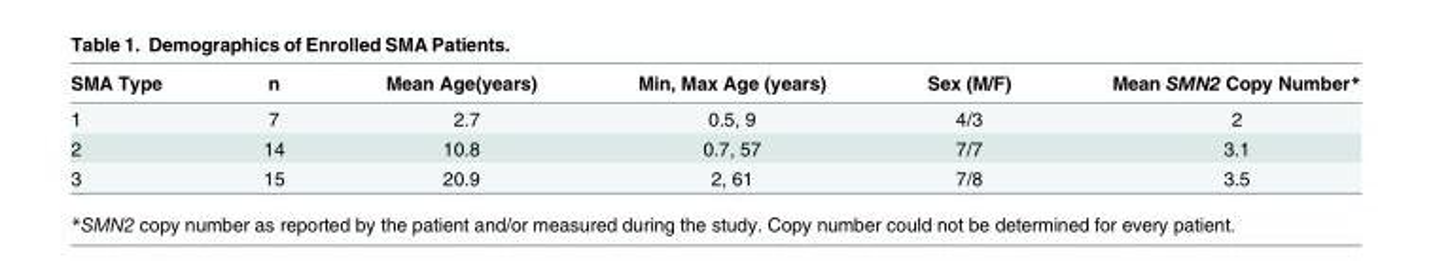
<table><thead><tr><td>SMA Type</td><td>n</td><td>Mean Age(years)</td><td>Min, Max Age (years)</td><td>Sex (M/F)</td><td>Mean SMN2 Copy Number*</td></tr></thead><tbody><tr><td>1</td><td>7</td><td>2.7</td><td>0.5, 9</td><td>4/3</td><td>2</td></tr><tr><td>2</td><td>14</td><td>10.8</td><td>0.7, 57</td><td>7/7</td><td>3.1</td></tr><tr><td>3</td><td>15</td><td>20.9</td><td>2, 61</td><td>7/8</td><td>3.5</td></tr></tbody></table>